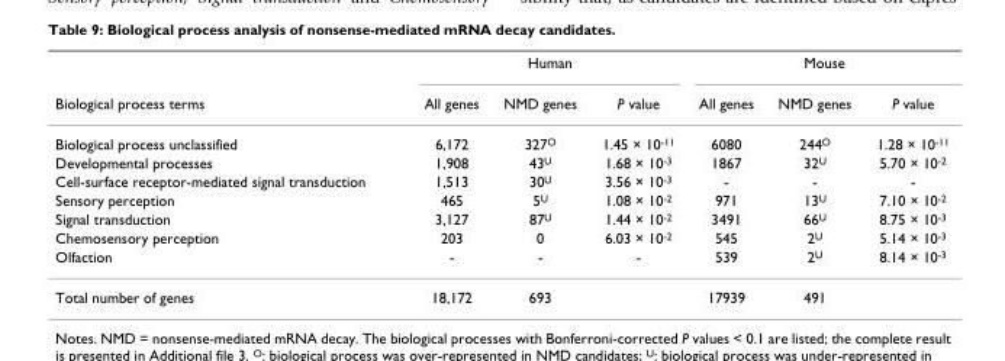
<table><thead><tr><td rowspan="2">Biological process terms</td><td colspan="3">Human</td><td colspan="3">Mouse</td></tr><tr><td>All genes</td><td>NMD genes</td><td>P value</td><td>All genes</td><td>NMD genes</td><td>P value</td></tr></thead><tbody><tr><td>Biological process unclassified</td><td>6,172</td><td>327<sup>O</sup></td><td>1.45 × 10<sup>-11</sup></td><td>6080</td><td>244<sup>O</sup></td><td>1.28 × 10<sup>-11</sup></td></tr><tr><td>Developmental processes</td><td>1,908</td><td>43<sup>U</sup></td><td>1.68 × 10<sup>-3</sup></td><td>1867</td><td>32<sup>U</sup></td><td>5.70 × 10<sup>-2</sup></td></tr><tr><td>Cell-surface receptor-mediated signal transduction</td><td>1,513</td><td>30<sup>U</sup></td><td>3.56 × 10<sup>-3</sup></td><td>-</td><td>-</td><td>-</td></tr><tr><td>Sensory perception</td><td>465</td><td>5<sup>U</sup></td><td>1.08 × 10<sup>-2</sup></td><td>971</td><td>13<sup>U</sup></td><td>7.10 × 10<sup>-2</sup></td></tr><tr><td>Signal transduction</td><td>3,127</td><td>87<sup>U</sup></td><td>1.44 × 10<sup>-2</sup></td><td>3491</td><td>66<sup>U</sup></td><td>8.75 × 10<sup>-3</sup></td></tr><tr><td>Chemosensory perception</td><td>203</td><td>0</td><td>6.03 × 10<sup>-2</sup></td><td>545</td><td>2<sup>U</sup></td><td>5.14 × 10<sup>-3</sup></td></tr><tr><td>Olfaction</td><td>-</td><td>-</td><td>-</td><td>539</td><td>2<sup>U</sup></td><td>8.14 × 10<sup>-3</sup></td></tr><tr><td>Total number of genes</td><td>18,172</td><td>693</td><td></td><td>17939</td><td>491</td><td></td></tr></tbody></table>